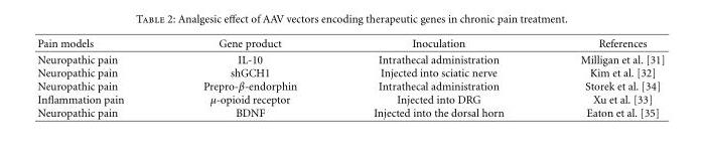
<table><thead><tr><td>Pain models</td><td>Gene product</td><td>Inoculation</td><td>References</td></tr></thead><tbody><tr><td>Neuropathic pain Neuropathic pain Neuropathic pain Inflammation pain Neuropathic pain</td><td>IL-10 shGCH1 Prepro-β-endorphin μ-opioid receptor BDNF</td><td>Intrathecal administration Injected into sciatic nerve Intrathecal administration Injected into DRG Injected into the dorsal horn</td><td>Milligan et al. [31] Kim et al. [32] Storek et al. [34] Xu et al. [33] Eaton et al. [35]</td></tr></tbody></table>